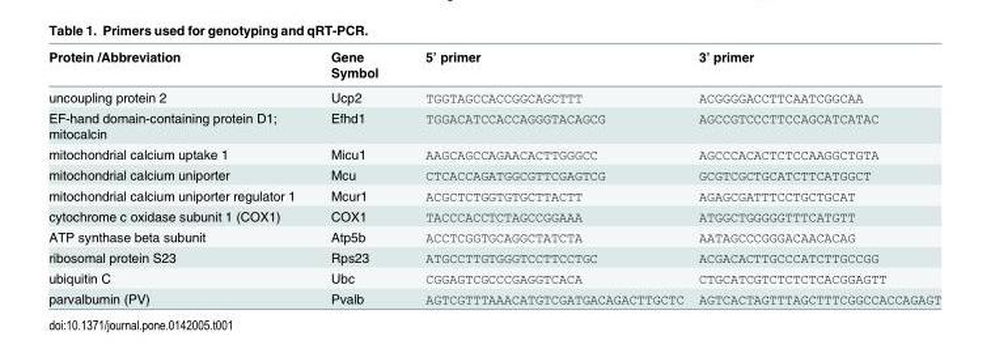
<table><thead><tr><td>Protein /Abbreviation</td><td>Gene Symbol</td><td>5’ primer</td><td>3’ primer</td></tr></thead><tbody><tr><td>uncoupling protein 2</td><td>Ucp2</td><td>TGGTAGCCACCGGCAGCTTT</td><td>ACGGGGACCTTCAATCGGCAA</td></tr><tr><td>EF-hand domain-containing protein D1; mitocalcin</td><td>Efhd1</td><td>TGGACATCCACCAGGGTACAGCG</td><td>AGCCGTCCCTTCCAGCATCATAC</td></tr><tr><td>mitochondrial calcium uptake 1</td><td>Micu1</td><td>AAGCAGCCAGAACACTTGGGCC</td><td>AGCCCACACTCTCCAAGGCTGTA</td></tr><tr><td>mitochondrial calcium uniporter</td><td>Mcu</td><td>CTCACCAGATGGCGTTCGAGTCG</td><td>GCGTCGCTGCATCTTCATGGCT</td></tr><tr><td>mitochondrial calcium uniporter regulator 1</td><td>Mcur1</td><td>ACGCTCTGGTGTGCTTACTT</td><td>AGAGCGATTTCCTGCTGCAT</td></tr><tr><td>cytochrome c oxidase subunit 1 (COX1)</td><td>COX1</td><td>TACCCACCTCTAGCCGGAAA</td><td>ATGGCTGGGGGTTTCATGTT</td></tr><tr><td>ATP synthase beta subunit</td><td>Atp5b</td><td>ACCTCGGTGCAGGCTATCTA</td><td>AATAGCCCGGGACAACACAG</td></tr><tr><td>ribosomal protein S23</td><td>Rps23</td><td>ATGCCTTGTGGGTCCTTCCTGC</td><td>ACGACACTTGCCCATCTTGCCGG</td></tr><tr><td>ubiquitin C</td><td>Ubc</td><td>CGGAGTCGCCCGAGGTCACA</td><td>CTGCATCGTCTCTCTCACGGAGTT</td></tr><tr><td>parvalbumin (PV)</td><td>Pvalb</td><td>AGTCGTTTAAACATGTCGATGACAGACTTGCTC</td><td>AGTCACTAGTTTAGCTTTCGGCCACCAGAGT</td></tr></tbody></table>